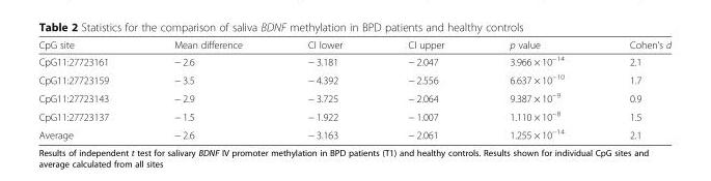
<table><thead><tr><td>CpG site</td><td>Mean difference</td><td>CI lower</td><td>CI upper</td><td>p value</td><td>Cohen’s d</td></tr></thead><tbody><tr><td>CpG11:27723161</td><td>− 2.6</td><td>− 3.181</td><td>− 2.047</td><td>3.966 × 10<sup>−14</sup></td><td>2.1</td></tr><tr><td>CpG11:27723159</td><td>− 3.5</td><td>− 4.392</td><td>− 2.556</td><td>6.637 × 10<sup>−10</sup></td><td>1.7</td></tr><tr><td>CpG11:27723143</td><td>− 2.9</td><td>− 3.725</td><td>− 2.064</td><td>9.387 × 10<sup>−9</sup></td><td>0.9</td></tr><tr><td>CpG11:27723137</td><td>− 1.5</td><td>− 1.922</td><td>− 1.007</td><td>1.110 × 10<sup>−8</sup></td><td>1.5</td></tr><tr><td>Average</td><td>− 2.6</td><td>− 3.163</td><td>− 2.061</td><td>1.255 × 10<sup>−14</sup></td><td>2.1</td></tr></tbody></table>